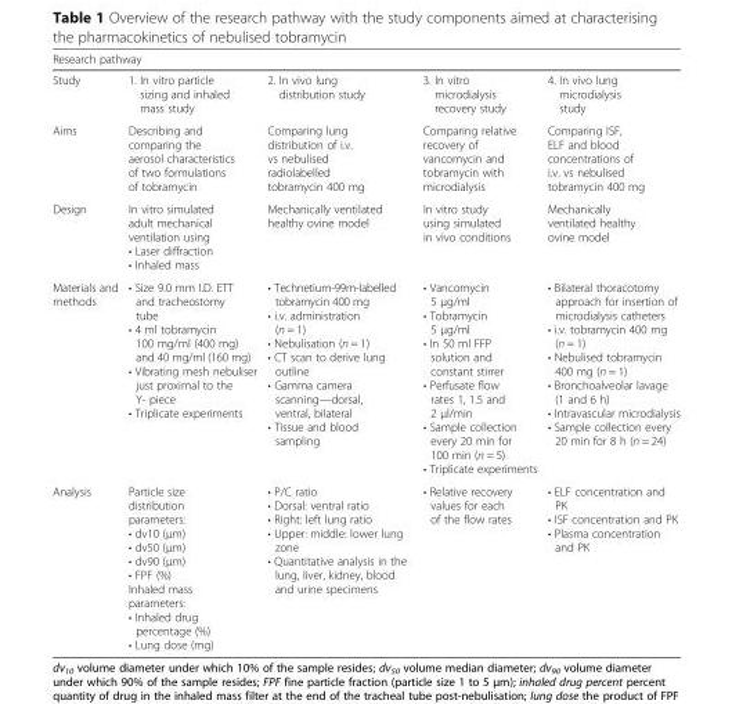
<table><thead><tr><td colspan="5">Research pathway</td></tr><tr><td>Study</td><td>1. In vitro particle sizing and inhaled mass study</td><td>2. In vivo lung distribution study</td><td>3. In vitro microdialysis recovery study</td><td>4. In vivo lung microdialysis study</td></tr></thead><tbody><tr><td>Aims</td><td>Describing and comparing the aerosol characteristics of two formulations of tobramycin</td><td>Comparing lung distribution of i.v. vs nebulised radiolabelled tobramycin 400 mg</td><td>Comparing relative recovery of vancomycin and tobramycin with microdialysis</td><td>Comparing ISF, ELF and blood concentrations of i.v. vs nebulised tobramycin 400 mg</td></tr><tr><td>Design</td><td>In vitro simulated adult mechanical ventilation using • Laser diffraction • Inhaled mass</td><td>Mechanically ventilated healthy ovine model</td><td>In vitro study using simulated in vivo conditions</td><td>Mechanically ventilated healthy ovine model</td></tr><tr><td>Materials and methods</td><td>• Size 9.0 mm I.D. ETT and tracheostomy tube • 4 ml tobramycin 100 mg/ml (400 mg) and 40 mg/ml (160 mg) • Vibrating mesh nebuliser just proximal to the Y- piece • Triplicate experiments</td><td>• Technetium-99m-labelled tobramycin 400 mg • i.v. administration (n = 1) • Nebulisation (n = 1) • CT scan to derive lung outline • Gamma camera scanning—dorsal, ventral, bilateral • Tissue and blood sampling</td><td>• Vancomycin 5 μg/ml • Tobramycin 5 μg/ml • In 50 ml FFP solution and constant stirrer • Perfusate flow rates 1, 1.5 and 2 μl/min • Sample collection every 20 min for 100 min (n = 5) • Triplicate experiments</td><td>• Bilateral thoracotomy approach for insertion of microdialysis catheters • i.v. tobramycin 400 mg (n = 1) • Nebulised tobramycin 400 mg (n = 1) • Bronchoalveolar lavage (1 and 6 h) • Intravascular microdialysis • Sample collection every 20 min for 8 h (n = 24)</td></tr><tr><td>Analysis</td><td>Particle size distribution parameters: • dv10 (μm) • dv50 (μm) • dv90 (μm) • FPF (%) Inhaled mass parameters: • Inhaled drug percentage (%) • Lung dose (mg)</td><td>• P/C ratio • Dorsal: ventral ratio • Right: left lung ratio • Upper: middle: lower lung zone • Quantitative analysis in the lung, liver, kidney, blood and urine specimens</td><td>• Relative recovery values for each of the flow rates</td><td>• ELF concentration and PK • ISF concentration and PK • Plasma concentration and PK</td></tr></tbody></table>